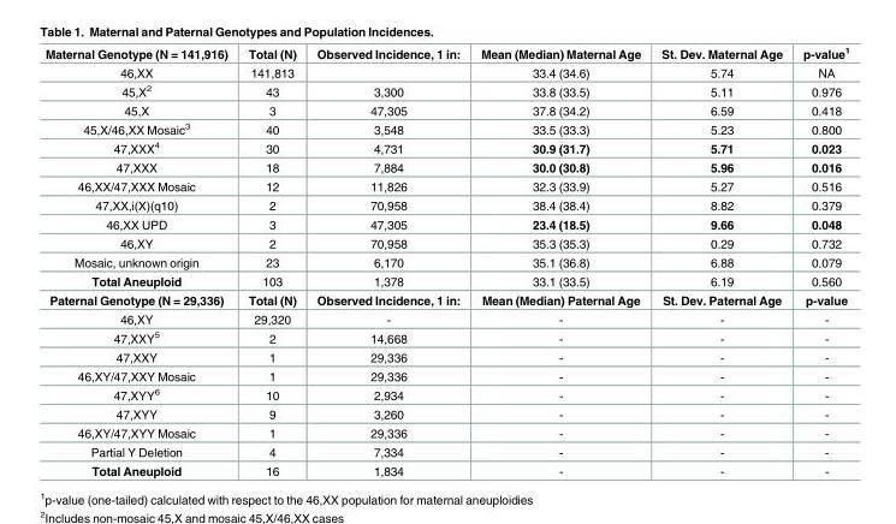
<table><tbody><tr><td>Maternal Genotype (N = 141,916)</td><td>Total (N)</td><td>Observed Incidence, 1 in:</td><td>Mean (Median) Maternal Age</td><td>St. Dev. Maternal Age</td><td>p-value<sup>1</sup></td></tr><tr><td>46,XX</td><td>141,813</td><td></td><td>33.4 (34.6)</td><td>5.74</td><td>NA</td></tr><tr><td>45,X<sup>2</sup></td><td>43</td><td>3,300</td><td>33.8 (33.5)</td><td>5.11</td><td>0.976</td></tr><tr><td>45,X</td><td>3</td><td>47,305</td><td>37.8 (34.2)</td><td>6.59</td><td>0.418</td></tr><tr><td>45,X/46,XX Mosaic<sup>3</sup></td><td>40</td><td>3,548</td><td>33.5 (33.3)</td><td>5.23</td><td>0.800</td></tr><tr><td>47,XXX<sup>4</sup></td><td>30</td><td>4,731</td><td>30.9 (31.7)</td><td>5.71</td><td>0.023</td></tr><tr><td>47,XXX</td><td>18</td><td>7,884</td><td>30.0 (30.8)</td><td>5.96</td><td>0.016</td></tr><tr><td>46,XX/47,XXX Mosaic</td><td>12</td><td>11,826</td><td>32.3 (33.9)</td><td>5.27</td><td>0.516</td></tr><tr><td>47,XX,i(X)(q10)</td><td>2</td><td>70,958</td><td>38.4 (38.4)</td><td>8.82</td><td>0.379</td></tr><tr><td>46,XX UPD</td><td>3</td><td>47,305</td><td>23.4 (18.5)</td><td>9.66</td><td>0.048</td></tr><tr><td>46,XY</td><td>2</td><td>70,958</td><td>35.3 (35.3)</td><td>0.29</td><td>0.732</td></tr><tr><td>Mosaic, unknown origin</td><td>23</td><td>6,170</td><td>35.1 (36.8)</td><td>6.88</td><td>0.079</td></tr><tr><td>Total Aneuploid</td><td>103</td><td>1,378</td><td>33.1 (33.5)</td><td>6.19</td><td>0.560</td></tr><tr><td>Paternal Genotype (N = 29,336)</td><td>Total (N)</td><td>Observed Incidence, 1 in:</td><td>Mean (Median) Paternal Age</td><td>St. Dev. Paternal Age</td><td>p-value</td></tr><tr><td>46,XY</td><td>29,320</td><td>-</td><td>-</td><td>-</td><td>-</td></tr><tr><td>47,XXY<sup>5</sup></td><td>2</td><td>14,668</td><td>-</td><td>-</td><td>-</td></tr><tr><td>47,XXY</td><td>1</td><td>29,336</td><td>-</td><td>-</td><td>-</td></tr><tr><td>46,XY/47,XXY Mosaic</td><td>1</td><td>29,336</td><td>-</td><td>-</td><td>-</td></tr><tr><td>47,XYY<sup>6</sup></td><td>10</td><td>2,934</td><td>-</td><td>-</td><td>-</td></tr><tr><td>47,XYY</td><td>9</td><td>3,260</td><td>-</td><td>-</td><td>-</td></tr><tr><td>46,XY/47,XYY Mosaic</td><td>1</td><td>29,336</td><td>-</td><td>-</td><td>-</td></tr><tr><td>Partial Y Deletion</td><td>4</td><td>7,334</td><td>-</td><td>-</td><td>-</td></tr><tr><td>Total Aneuploid</td><td>16</td><td>1,834</td><td>-</td><td>-</td><td>-</td></tr></tbody></table>